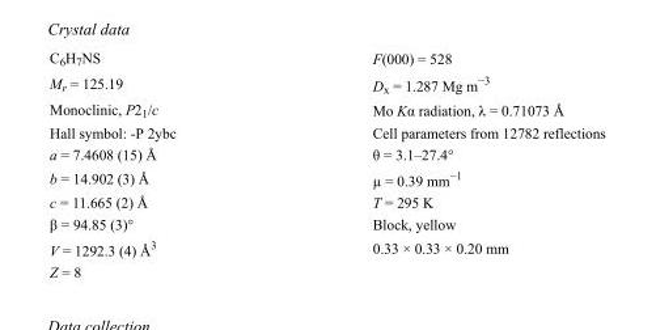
<table><tbody><tr><td>C<sub>6</sub>H<sub>7</sub>NS</td><td>F(000) = 528</td></tr><tr><td>M<sub>r</sub> = 125.19</td><td>D<sub>x</sub> = 1.287 Mg m<sup>−3</sup></td></tr><tr><td>Monoclinic, P2<sub>1</sub>/c</td><td>Mo Kα radiation, λ = 0.71073 Å</td></tr><tr><td>Hall symbol: -P 2ybc</td><td>Cell parameters from 12782 reflections</td></tr><tr><td>a = 7.4608 (15) Å</td><td>θ = 3.1–27.4°</td></tr><tr><td>b = 14.902 (3) Å</td><td>µ = 0.39 mm<sup>−1</sup></td></tr><tr><td>c = 11.665 (2) Å</td><td>T = 295 K</td></tr><tr><td>β = 94.85 (3)°</td><td>Block, yellow</td></tr><tr><td>V = 1292.3 (4) Å<sup>3</sup></td><td>0.33 × 0.33 × 0.20 mm</td></tr><tr><td>Z = 8</td><td></td></tr></tbody></table>